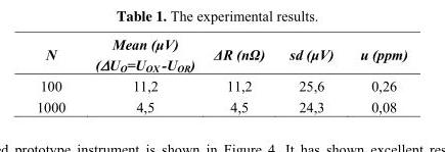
<table><thead><tr><td>N</td><td>Mean (μV) (ΔU<sub>O</sub>=U<sub>OX</sub> -U<sub>OR</sub>)</td><td>ΔR (nΩ)</td><td>sd (μV)</td><td>u (ppm)</td></tr></thead><tbody><tr><td>100</td><td>11,2</td><td>11,2</td><td>25,6</td><td>0,26</td></tr><tr><td>1000</td><td>4,5</td><td>4,5</td><td>24,3</td><td>0,08</td></tr></tbody></table>